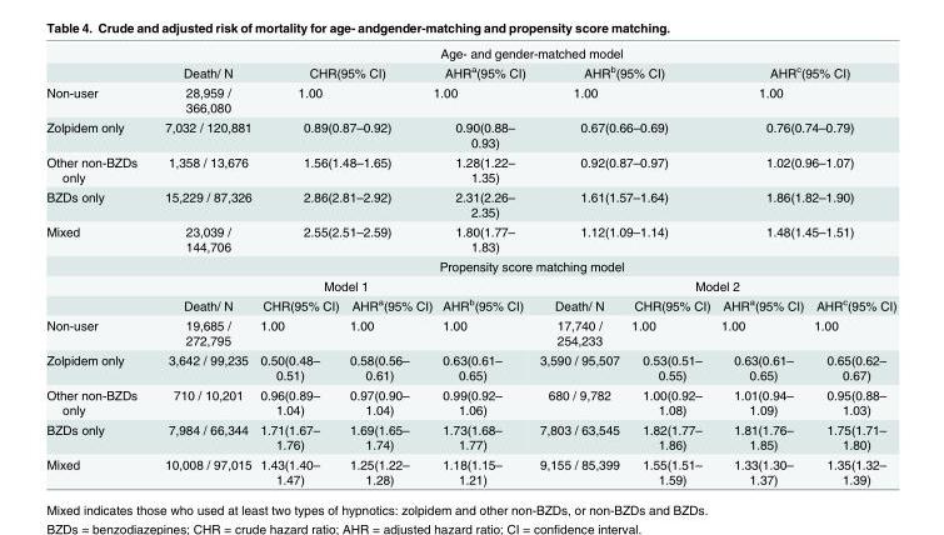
<table><thead><tr><td></td><td colspan="8">Age- and gender-matched model</td></tr></thead><tbody><tr><td></td><td>Death/ N</td><td colspan="2">CHR(95% CI)</td><td>AHR<sup>a</sup>(95% CI)</td><td colspan="2">AHR<sup>b</sup>(95% CI)</td><td colspan="2">AHR<sup>c</sup>(95% CI)</td></tr><tr><td>Non-user</td><td>28,959 / 366,080</td><td colspan="2">1.00</td><td>1.00</td><td colspan="2">1.00</td><td colspan="2">1.00</td></tr><tr><td>Zolpidem only</td><td>7,032 / 120,881</td><td colspan="2">0.89(0.87–0.92)</td><td>0.90(0.88– 0.93)</td><td colspan="2">0.67(0.66–0.69)</td><td colspan="2">0.76(0.74–0.79)</td></tr><tr><td>Other non-BZDs only</td><td>1,358 / 13,676</td><td colspan="2">1.56(1.48–1.65)</td><td>1.28(1.22– 1.35)</td><td colspan="2">0.92(0.87–0.97)</td><td colspan="2">1.02(0.96–1.07)</td></tr><tr><td>BZDs only</td><td>15,229 / 87,326</td><td colspan="2">2.86(2.81–2.92)</td><td>2.31(2.26– 2.35)</td><td colspan="2">1.61(1.57–1.64)</td><td colspan="2">1.86(1.82–1.90)</td></tr><tr><td rowspan="4">Mixed</td><td>23,039 / 144,706</td><td colspan="2">2.55(2.51–2.59)</td><td>1.80(1.77– 1.83)</td><td colspan="2">1.12(1.09–1.14)</td><td colspan="2">1.48(1.45–1.51)</td></tr><tr><td colspan="8">Propensity score matching model</td></tr><tr><td colspan="4">Model 1</td><td colspan="4">Model 2</td></tr><tr><td>Death/ N</td><td>CHR(95% CI)</td><td>AHR<sup>a</sup>(95% CI)</td><td>AHR<sup>b</sup>(95% CI)</td><td>Death/ N</td><td>CHR(95% CI)</td><td>AHR<sup>a</sup>(95% CI)</td><td>AHR<sup>c</sup>(95% CI)</td></tr><tr><td>Non-user</td><td>19,685 / 272,795</td><td>1.00</td><td>1.00</td><td>1.00</td><td>17,740 / 254,233</td><td>1.00</td><td>1.00</td><td>1.00</td></tr><tr><td>Zolpidem only</td><td>3,642 / 99,235</td><td>0.50(0.48– 0.51)</td><td>0.58(0.56– 0.61)</td><td>0.63(0.61– 0.65)</td><td>3,590 / 95,507</td><td>0.53(0.51– 0.55)</td><td>0.63(0.61– 0.65)</td><td>0.65(0.62– 0.67)</td></tr><tr><td>Other non-BZDs only</td><td>710 / 10,201</td><td>0.96(0.89– 1.04)</td><td>0.97(0.90– 1.04)</td><td>0.99(0.92– 1.06)</td><td>680 / 9,782</td><td>1.00(0.92– 1.08)</td><td>1.01(0.94– 1.09)</td><td>0.95(0.88– 1.03)</td></tr><tr><td>BZDs only</td><td>7,984 / 66,344</td><td>1.71(1.67– 1.76)</td><td>1.69(1.65– 1.74)</td><td>1.73(1.68– 1.77)</td><td>7,803 / 63,545</td><td>1.82(1.77– 1.86)</td><td>1.81(1.76– 1.85)</td><td>1.75(1.71– 1.80)</td></tr><tr><td>Mixed</td><td>10,008 / 97,015</td><td>1.43(1.40– 1.47)</td><td>1.25(1.22– 1.28)</td><td>1.18(1.15– 1.21)</td><td>9,155 / 85,399</td><td>1.55(1.51– 1.59)</td><td>1.33(1.30– 1.37)</td><td>1.35(1.32– 1.39)</td></tr></tbody></table>